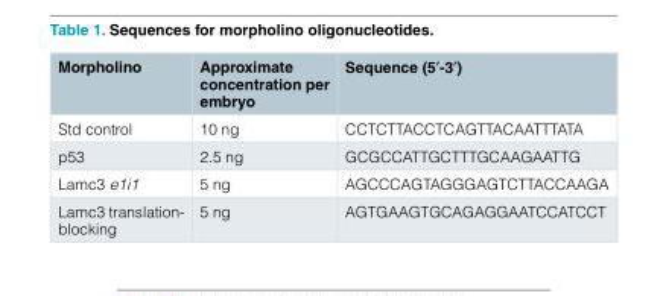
<table><thead><tr><td>Morpholino</td><td>Approximate concentration per embryo</td><td>Sequence (5′-3′)</td></tr></thead><tbody><tr><td>Std control</td><td>10 ng</td><td>CCTCTTACCTCAGTTACAATTTATA</td></tr><tr><td>p53</td><td>2.5 ng</td><td>GCGCCATTGCTTTGCAAGAATTG</td></tr><tr><td>Lamc3 e1i1</td><td>5 ng</td><td>AGCCCAGTAGGGAGTCTTACCAAGA</td></tr><tr><td>Lamc3 translation- blocking</td><td>5 ng</td><td>AGTGAAGTGCAGAGGAATCCATCCT</td></tr></tbody></table>